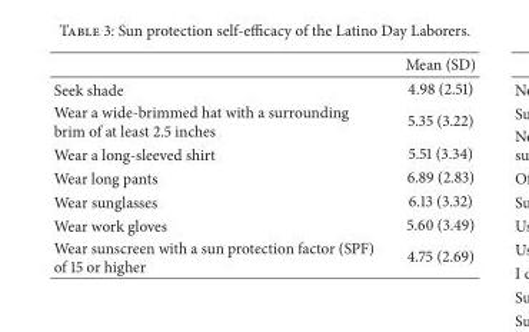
<table><thead><tr><td></td><td>Mean (SD)</td></tr></thead><tbody><tr><td>Seek shade</td><td>4.98 (2.51)</td></tr><tr><td>Wear a wide-brimmed hat with a surrounding brim of at least 2.5 inches</td><td>5.35 (3.22)</td></tr><tr><td>Wear a long-sleeved shirt</td><td>5.51 (3.34)</td></tr><tr><td>Wear long pants</td><td>6.89 (2.83)</td></tr><tr><td>Wear sunglasses</td><td>6.13 (3.32)</td></tr><tr><td>Wear work gloves</td><td>5.60 (3.49)</td></tr><tr><td>Wear sunscreen with a sun protection factor (SPF) of 15 or higher</td><td>4.75 (2.69)</td></tr></tbody></table>